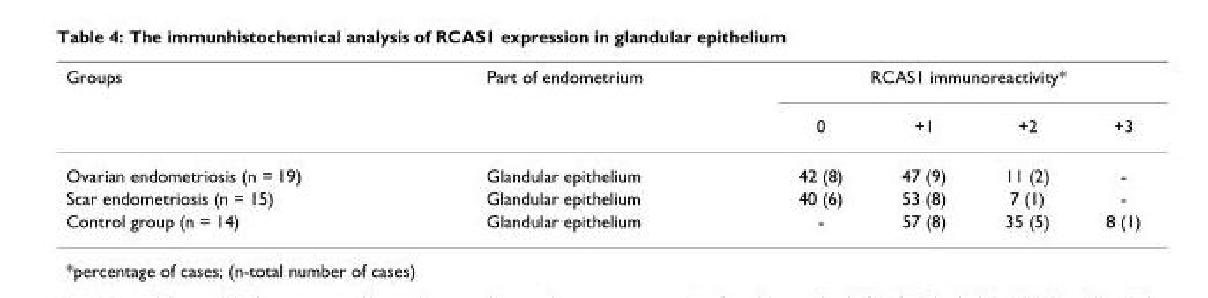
<table><thead><tr><td rowspan="2">Groups</td><td rowspan="2">Part of endometrium</td><td colspan="4">RCAS1 immunoreactivity*</td></tr><tr><td>0</td><td>+1</td><td>+2</td><td>+3</td></tr></thead><tbody><tr><td>Ovarian endometriosis (n = 19)</td><td>Glandular epithelium</td><td>42 (8)</td><td>47 (9)</td><td>11 (2)</td><td>-</td></tr><tr><td>Scar endometriosis (n = 15)</td><td>Glandular epithelium</td><td>40 (6)</td><td>53 (8)</td><td>7 (1)</td><td>-</td></tr><tr><td>Control group (n = 14)</td><td>Glandular epithelium</td><td>-</td><td>57 (8)</td><td>35 (5)</td><td>8 (1)</td></tr></tbody></table>